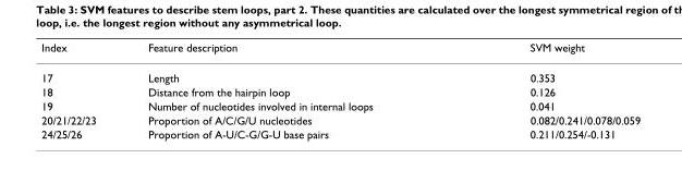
<table><thead><tr><td>Index</td><td>Feature description</td><td>SVM weight</td></tr></thead><tbody><tr><td>17</td><td>Length</td><td>0.353</td></tr><tr><td>18</td><td>Distance from the hairpin loop</td><td>0.126</td></tr><tr><td>19</td><td>Number of nucleotides involved in internal loops</td><td>0.041</td></tr><tr><td>20/21/22/23</td><td>Proportion of A/C/G/U nucleotides</td><td>0.082/0.241/0.078/0.059</td></tr><tr><td>24/25/26</td><td>Proportion of A-U/C-G/G-U base pairs</td><td>0.211/0.254/-0.131</td></tr></tbody></table>